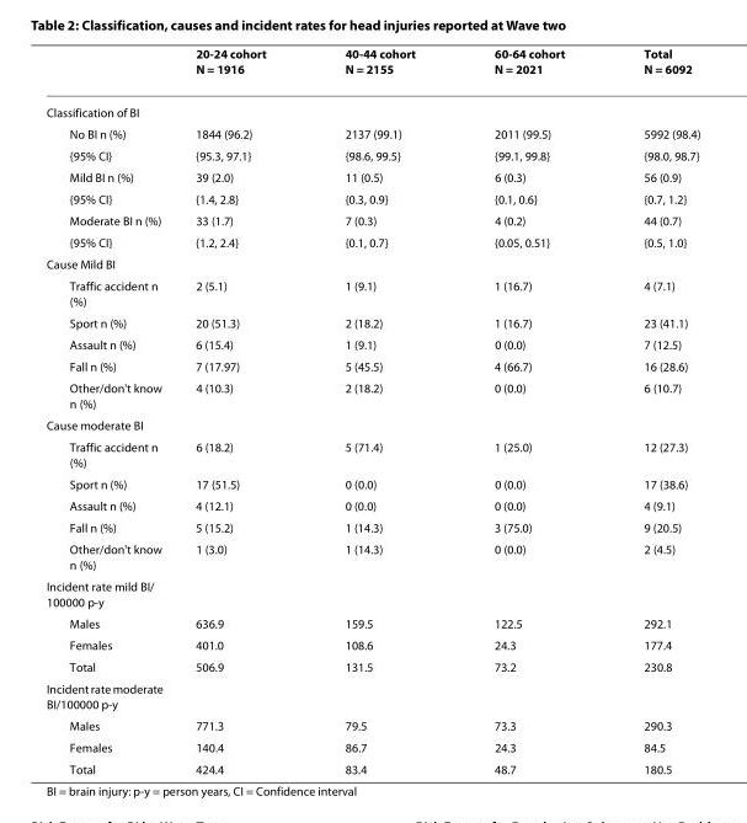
<table><thead><tr><td></td><td>20-24 cohort N = 1916</td><td>40-44 cohort N = 2155</td><td>60-64 cohort N = 2021</td><td>Total N = 6092</td></tr></thead><tbody><tr><td colspan="5">Classification of BI</td></tr><tr><td>No BI n (%)</td><td>1844 (96.2)</td><td>2137 (99.1)</td><td>2011 (99.5)</td><td>5992 (98.4)</td></tr><tr><td>{95% CI}</td><td>{95.3, 97.1}</td><td>{98.6, 99.5}</td><td>{99.1, 99.8}</td><td>{98.0, 98.7}</td></tr><tr><td>Mild BI n (%)</td><td>39 (2.0)</td><td>11 (0.5)</td><td>6 (0.3)</td><td>56 (0.9)</td></tr><tr><td>{95% CI}</td><td>{1.4, 2.8}</td><td>{0.3, 0.9}</td><td>{0.1, 0.6}</td><td>{0.7, 1.2}</td></tr><tr><td>Moderate BI n (%)</td><td>33 (1.7)</td><td>7 (0.3)</td><td>4 (0.2)</td><td>44 (0.7)</td></tr><tr><td>{95% CI}</td><td>{1.2, 2.4}</td><td>{0.1, 0.7}</td><td>{0.05, 0.51}</td><td>{0.5, 1.0}</td></tr><tr><td colspan="5">Cause Mild BI</td></tr><tr><td>Traffic accident n (%)</td><td>2 (5.1)</td><td>1 (9.1)</td><td>1 (16.7)</td><td>4 (7.1)</td></tr><tr><td>Sport n (%)</td><td>20 (51.3)</td><td>2 (18.2)</td><td>1 (16.7)</td><td>23 (41.1)</td></tr><tr><td>Assault n (%)</td><td>6 (15.4)</td><td>1 (9.1)</td><td>0 (0.0)</td><td>7 (12.5)</td></tr><tr><td>Fall n (%)</td><td>7 (17.97)</td><td>5 (45.5)</td><td>4 (66.7)</td><td>16 (28.6)</td></tr><tr><td>Other/don&#x27;t know n (%)</td><td>4 (10.3)</td><td>2 (18.2)</td><td>0 (0.0)</td><td>6 (10.7)</td></tr><tr><td colspan="5">Cause moderate BI</td></tr><tr><td>Traffic accident n (%)</td><td>6 (18.2)</td><td>5 (71.4)</td><td>1 (25.0)</td><td>12 (27.3)</td></tr><tr><td>Sport n (%)</td><td>17 (51.5)</td><td>0 (0.0)</td><td>0 (0.0)</td><td>17 (38.6)</td></tr><tr><td>Assault n (%)</td><td>4 (12.1)</td><td>0 (0.0)</td><td>0 (0.0)</td><td>4 (9.1)</td></tr><tr><td>Fall n (%)</td><td>5 (15.2)</td><td>1 (14.3)</td><td>3 (75.0)</td><td>9 (20.5)</td></tr><tr><td>Other/don&#x27;t know n (%)</td><td>1 (3.0)</td><td>1 (14.3)</td><td>0 (0.0)</td><td>2 (4.5)</td></tr><tr><td colspan="5">Incident rate mild BI/ 100000 p-y</td></tr><tr><td>Males</td><td>636.9</td><td>159.5</td><td>122.5</td><td>292.1</td></tr><tr><td>Females</td><td>401.0</td><td>108.6</td><td>24.3</td><td>177.4</td></tr><tr><td>Total</td><td>506.9</td><td>131.5</td><td>73.2</td><td>230.8</td></tr><tr><td colspan="5">Incident rate moderate BI/100000 p-y</td></tr><tr><td>Males</td><td>771.3</td><td>79.5</td><td>73.3</td><td>290.3</td></tr><tr><td>Females</td><td>140.4</td><td>86.7</td><td>24.3</td><td>84.5</td></tr><tr><td>Total</td><td>424.4</td><td>83.4</td><td>48.7</td><td>180.5</td></tr></tbody></table>